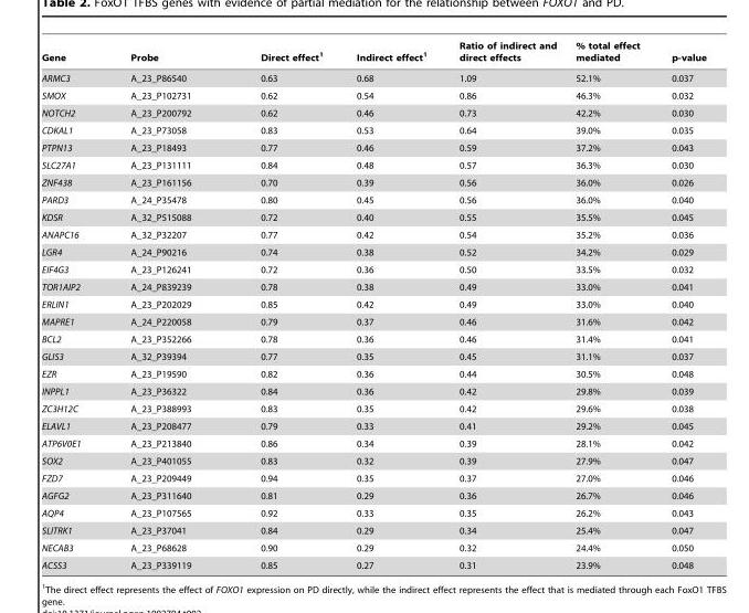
<table><thead><tr><td>Gene</td><td>Probe</td><td>Direct effect<sup>1</sup></td><td>Indirect effect<sup>1</sup></td><td>Ratio of indirect and direct effects</td><td>% total effect mediated</td><td>p-value</td></tr></thead><tbody><tr><td>ARMC3</td><td>A_23_P86540</td><td>0.63</td><td>0.68</td><td>1.09</td><td>52.1%</td><td>0.037</td></tr><tr><td>SMOX</td><td>A_23_P102731</td><td>0.62</td><td>0.54</td><td>0.86</td><td>46.3%</td><td>0.032</td></tr><tr><td>NOTCH2</td><td>A_23_P200792</td><td>0.62</td><td>0.46</td><td>0.73</td><td>42.2%</td><td>0.030</td></tr><tr><td>CDKAL1</td><td>A_23_P73058</td><td>0.83</td><td>0.53</td><td>0.64</td><td>39.0%</td><td>0.035</td></tr><tr><td>PTPN13</td><td>A_23_P18493</td><td>0.77</td><td>0.46</td><td>0.59</td><td>37.2%</td><td>0.043</td></tr><tr><td>SLC27A1</td><td>A_23_P131111</td><td>0.84</td><td>0.48</td><td>0.57</td><td>36.3%</td><td>0.030</td></tr><tr><td>ZNF438</td><td>A_23_P161156</td><td>0.70</td><td>0.39</td><td>0.56</td><td>36.0%</td><td>0.026</td></tr><tr><td>PARD3</td><td>A_24_P35478</td><td>0.80</td><td>0.45</td><td>0.56</td><td>36.0%</td><td>0.040</td></tr><tr><td>KDSR</td><td>A_32_P515088</td><td>0.72</td><td>0.40</td><td>0.55</td><td>35.5%</td><td>0.045</td></tr><tr><td>ANAPC16</td><td>A_32_P32207</td><td>0.77</td><td>0.42</td><td>0.54</td><td>35.2%</td><td>0.036</td></tr><tr><td>LGR4</td><td>A_24_P90216</td><td>0.74</td><td>0.38</td><td>0.52</td><td>34.2%</td><td>0.029</td></tr><tr><td>EIF4G3</td><td>A_23_P126241</td><td>0.72</td><td>0.36</td><td>0.50</td><td>33.5%</td><td>0.032</td></tr><tr><td>TOR1AIP2</td><td>A_24_P839239</td><td>0.78</td><td>0.38</td><td>0.49</td><td>33.0%</td><td>0.041</td></tr><tr><td>ERLIN1</td><td>A_23_P202029</td><td>0.85</td><td>0.42</td><td>0.49</td><td>33.0%</td><td>0.040</td></tr><tr><td>MAPRE1</td><td>A_24_P220058</td><td>0.79</td><td>0.37</td><td>0.46</td><td>31.6%</td><td>0.042</td></tr><tr><td>BCL2</td><td>A_23_P352266</td><td>0.78</td><td>0.36</td><td>0.46</td><td>31.4%</td><td>0.041</td></tr><tr><td>GLIS3</td><td>A_32_P39394</td><td>0.77</td><td>0.35</td><td>0.45</td><td>31.1%</td><td>0.037</td></tr><tr><td>EZR</td><td>A_23_P19590</td><td>0.82</td><td>0.36</td><td>0.44</td><td>30.5%</td><td>0.048</td></tr><tr><td>INPPL1</td><td>A_23_P36322</td><td>0.84</td><td>0.36</td><td>0.42</td><td>29.8%</td><td>0.039</td></tr><tr><td>ZC3H12C</td><td>A_23_P388993</td><td>0.83</td><td>0.35</td><td>0.42</td><td>29.6%</td><td>0.038</td></tr><tr><td>ELAVL1</td><td>A_23_P208477</td><td>0.79</td><td>0.33</td><td>0.41</td><td>29.2%</td><td>0.045</td></tr><tr><td>ATP6V0E1</td><td>A_23_P213840</td><td>0.86</td><td>0.34</td><td>0.39</td><td>28.1%</td><td>0.042</td></tr><tr><td>SOX2</td><td>A_23_P401055</td><td>0.83</td><td>0.32</td><td>0.39</td><td>27.9%</td><td>0.047</td></tr><tr><td>FZD7</td><td>A_23_P209449</td><td>0.94</td><td>0.35</td><td>0.37</td><td>27.0%</td><td>0.046</td></tr><tr><td>AGFG2</td><td>A_23_P311640</td><td>0.81</td><td>0.29</td><td>0.36</td><td>26.7%</td><td>0.046</td></tr><tr><td>AQP4</td><td>A_23_P107565</td><td>0.92</td><td>0.33</td><td>0.35</td><td>26.2%</td><td>0.043</td></tr><tr><td>SLITRK1</td><td>A_23_P37041</td><td>0.84</td><td>0.29</td><td>0.34</td><td>25.4%</td><td>0.047</td></tr><tr><td>NECAB3</td><td>A_23_P68628</td><td>0.90</td><td>0.29</td><td>0.32</td><td>24.4%</td><td>0.050</td></tr><tr><td>ACSS3</td><td>A_23_P339119</td><td>0.85</td><td>0.27</td><td>0.31</td><td>23.9%</td><td>0.048</td></tr></tbody></table>